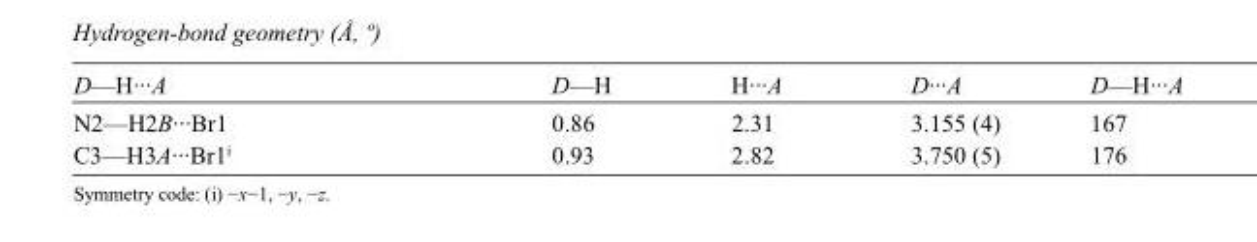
<table><tbody><tr><td>D—H···A</td><td>D—H</td><td>H···A</td><td>D···A</td><td>D—H···A</td></tr><tr><td>N2—H2B···Br1</td><td>0.86</td><td>2.31</td><td>3.155 (4)</td><td>167</td></tr><tr><td>C3—H3A···Br1<sup>i</sup></td><td>0.93</td><td>2.82</td><td>3.750 (5)</td><td>176</td></tr></tbody></table>